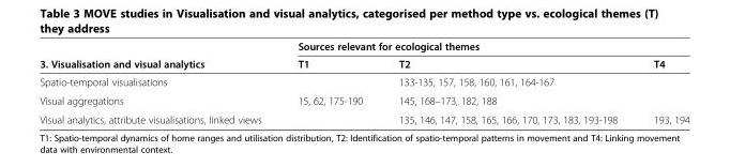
<table><thead><tr><td rowspan="2">3. Visualisation and visual analytics</td><td colspan="3">Sources relevant for ecological themes</td></tr><tr><td>T1</td><td>T2</td><td>T4</td></tr></thead><tbody><tr><td>Spatio-temporal visualisations</td><td></td><td>133-135, 157, 158, 160, 161, 164-167</td><td></td></tr><tr><td>Visual aggregations</td><td>15, 62, 175-190</td><td>145, 168–173, 182, 188</td><td></td></tr><tr><td>Visual analytics, attribute visualisations, linked views</td><td></td><td>135, 146, 147, 158, 165, 166, 170, 173, 183, 193-198</td><td>193, 194</td></tr></tbody></table>